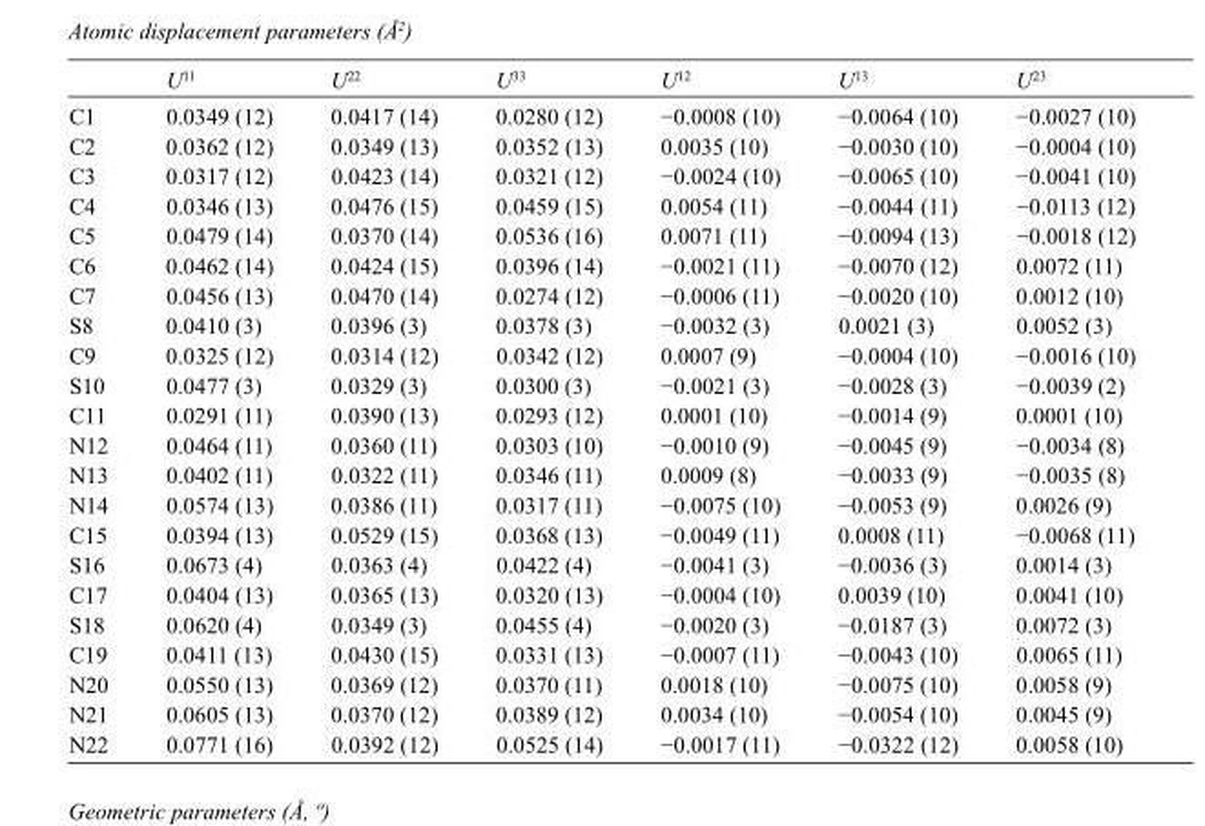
<table><thead><tr><td></td><td>U<sup>11</sup></td><td>U<sup>22</sup></td><td>U<sup>33</sup></td><td>U<sup>12</sup></td><td>U<sup>13</sup></td><td>U<sup>23</sup></td></tr></thead><tbody><tr><td>C1</td><td>0.0349 (12)</td><td>0.0417 (14)</td><td>0.0280 (12)</td><td>−0.0008 (10)</td><td>−0.0064 (10)</td><td>−0.0027 (10)</td></tr><tr><td>C2</td><td>0.0362 (12)</td><td>0.0349 (13)</td><td>0.0352 (13)</td><td>0.0035 (10)</td><td>−0.0030 (10)</td><td>−0.0004 (10)</td></tr><tr><td>C3</td><td>0.0317 (12)</td><td>0.0423 (14)</td><td>0.0321 (12)</td><td>−0.0024 (10)</td><td>−0.0065 (10)</td><td>−0.0041 (10)</td></tr><tr><td>C4</td><td>0.0346 (13)</td><td>0.0476 (15)</td><td>0.0459 (15)</td><td>0.0054 (11)</td><td>−0.0044 (11)</td><td>−0.0113 (12)</td></tr><tr><td>C5</td><td>0.0479 (14)</td><td>0.0370 (14)</td><td>0.0536 (16)</td><td>0.0071 (11)</td><td>−0.0094 (13)</td><td>−0.0018 (12)</td></tr><tr><td>C6</td><td>0.0462 (14)</td><td>0.0424 (15)</td><td>0.0396 (14)</td><td>−0.0021 (11)</td><td>−0.0070 (12)</td><td>0.0072 (11)</td></tr><tr><td>C7</td><td>0.0456 (13)</td><td>0.0470 (14)</td><td>0.0274 (12)</td><td>−0.0006 (11)</td><td>−0.0020 (10)</td><td>0.0012 (10)</td></tr><tr><td>S8</td><td>0.0410 (3)</td><td>0.0396 (3)</td><td>0.0378 (3)</td><td>−0.0032 (3)</td><td>0.0021 (3)</td><td>0.0052 (3)</td></tr><tr><td>C9</td><td>0.0325 (12)</td><td>0.0314 (12)</td><td>0.0342 (12)</td><td>0.0007 (9)</td><td>−0.0004 (10)</td><td>−0.0016 (10)</td></tr><tr><td>S10</td><td>0.0477 (3)</td><td>0.0329 (3)</td><td>0.0300 (3)</td><td>−0.0021 (3)</td><td>−0.0028 (3)</td><td>−0.0039 (2)</td></tr><tr><td>C11</td><td>0.0291 (11)</td><td>0.0390 (13)</td><td>0.0293 (12)</td><td>0.0001 (10)</td><td>−0.0014 (9)</td><td>0.0001 (10)</td></tr><tr><td>N12</td><td>0.0464 (11)</td><td>0.0360 (11)</td><td>0.0303 (10)</td><td>−0.0010 (9)</td><td>−0.0045 (9)</td><td>−0.0034 (8)</td></tr><tr><td>N13</td><td>0.0402 (11)</td><td>0.0322 (11)</td><td>0.0346 (11)</td><td>0.0009 (8)</td><td>−0.0033 (9)</td><td>−0.0035 (8)</td></tr><tr><td>N14</td><td>0.0574 (13)</td><td>0.0386 (11)</td><td>0.0317 (11)</td><td>−0.0075 (10)</td><td>−0.0053 (9)</td><td>0.0026 (9)</td></tr><tr><td>C15</td><td>0.0394 (13)</td><td>0.0529 (15)</td><td>0.0368 (13)</td><td>−0.0049 (11)</td><td>0.0008 (11)</td><td>−0.0068 (11)</td></tr><tr><td>S16</td><td>0.0673 (4)</td><td>0.0363 (4)</td><td>0.0422 (4)</td><td>−0.0041 (3)</td><td>−0.0036 (3)</td><td>0.0014 (3)</td></tr><tr><td>C17</td><td>0.0404 (13)</td><td>0.0365 (13)</td><td>0.0320 (13)</td><td>−0.0004 (10)</td><td>0.0039 (10)</td><td>0.0041 (10)</td></tr><tr><td>S18</td><td>0.0620 (4)</td><td>0.0349 (3)</td><td>0.0455 (4)</td><td>−0.0020 (3)</td><td>−0.0187 (3)</td><td>0.0072 (3)</td></tr><tr><td>C19</td><td>0.0411 (13)</td><td>0.0430 (15)</td><td>0.0331 (13)</td><td>−0.0007 (11)</td><td>−0.0043 (10)</td><td>0.0065 (11)</td></tr><tr><td>N20</td><td>0.0550 (13)</td><td>0.0369 (12)</td><td>0.0370 (11)</td><td>0.0018 (10)</td><td>−0.0075 (10)</td><td>0.0058 (9)</td></tr><tr><td>N21</td><td>0.0605 (13)</td><td>0.0370 (12)</td><td>0.0389 (12)</td><td>0.0034 (10)</td><td>−0.0054 (10)</td><td>0.0045 (9)</td></tr><tr><td>N22</td><td>0.0771 (16)</td><td>0.0392 (12)</td><td>0.0525 (14)</td><td>−0.0017 (11)</td><td>−0.0322 (12)</td><td>0.0058 (10)</td></tr></tbody></table>